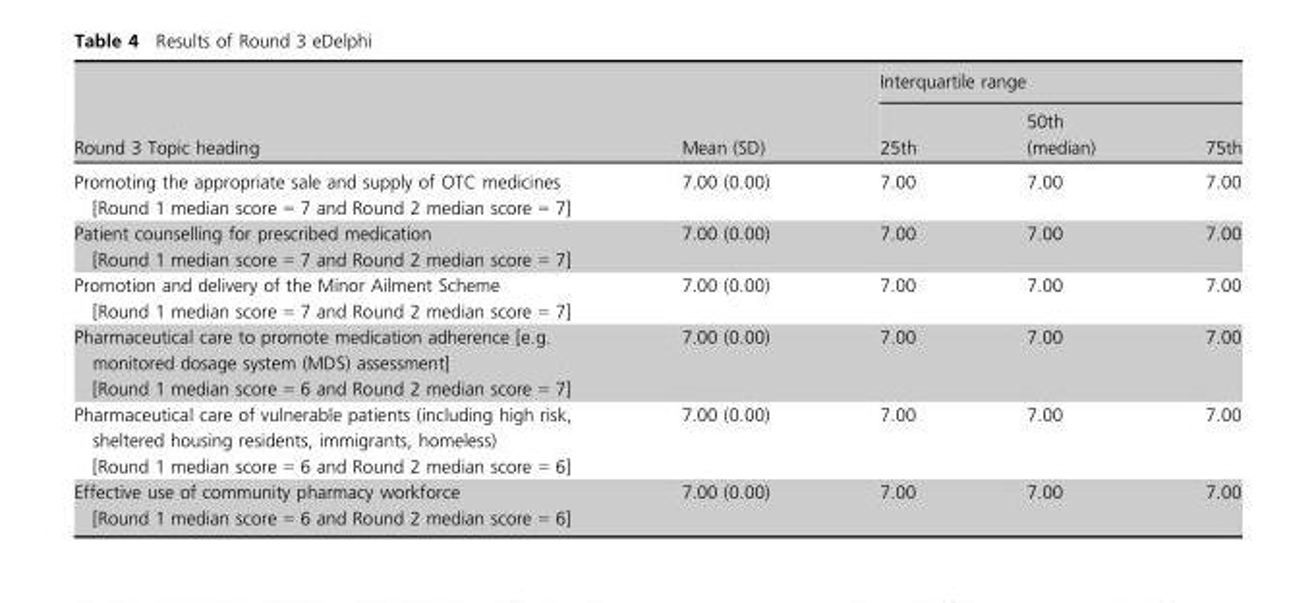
<table><thead><tr><td rowspan="2">Round 3 Topic heading</td><td rowspan="2">Mean (SD)</td><td colspan="3">Interquartile range</td></tr><tr><td>25th</td><td>50th (median)</td><td>75th</td></tr></thead><tbody><tr><td>Promoting the appropriate sale and supply of OTC medicines [Round 1 median score = 7 and Round 2 median score = 7]</td><td>7.00 (0.00)</td><td>7.00</td><td>7.00</td><td>7.00</td></tr><tr><td>Patient counselling for prescribed medication [Round 1 median score = 7 and Round 2 median score = 7]</td><td>7.00 (0.00)</td><td>7.00</td><td>7.00</td><td>7.00</td></tr><tr><td>Promotion and delivery of the Minor Ailment Scheme [Round 1 median score = 7 and Round 2 median score = 7]</td><td>7.00 (0.00)</td><td>7.00</td><td>7.00</td><td>7.00</td></tr><tr><td>Pharmaceutical care to promote medication adherence [e.g. monitored dosage system (MDS) assessment] [Round 1 median score = 6 and Round 2 median score = 7]</td><td>7.00 (0.00)</td><td>7.00</td><td>7.00</td><td>7.00</td></tr><tr><td>Pharmaceutical care of vulnerable patients (including high risk, sheltered housing residents, immigrants, homeless) [Round 1 median score = 6 and Round 2 median score = 6]</td><td>7.00 (0.00)</td><td>7.00</td><td>7.00</td><td>7.00</td></tr><tr><td>Effective use of community pharmacy workforce [Round 1 median score = 6 and Round 2 median score = 6]</td><td>7.00 (0.00)</td><td>7.00</td><td>7.00</td><td>7.00</td></tr></tbody></table>